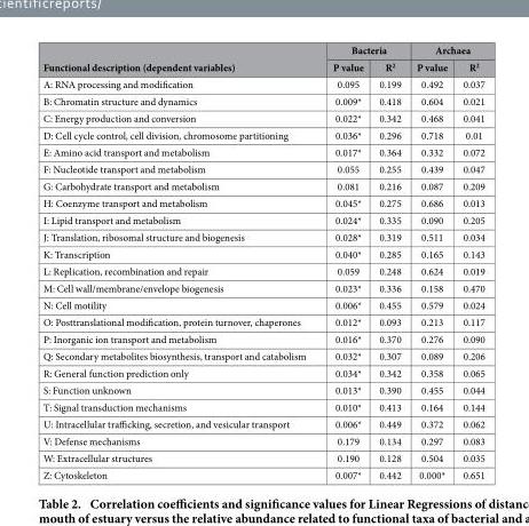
<table><thead><tr><td rowspan="2">Functional description (dependent variables)</td><td colspan="2">Bacteria</td><td colspan="2">Archaea</td></tr><tr><td>P value</td><td>R<sup>2</sup></td><td>P value</td><td>R<sup>2</sup></td></tr></thead><tbody><tr><td>A: RNA processing and modification</td><td>0.095</td><td>0.199</td><td>0.492</td><td>0.037</td></tr><tr><td>B: Chromatin structure and dynamics</td><td>0.009*</td><td>0.418</td><td>0.604</td><td>0.021</td></tr><tr><td>C: Energy production and conversion</td><td>0.022*</td><td>0.342</td><td>0.468</td><td>0.041</td></tr><tr><td>D: Cell cycle control, cell division, chromosome partitioning</td><td>0.036*</td><td>0.296</td><td>0.718</td><td>0.01</td></tr><tr><td>E: Amino acid transport and metabolism</td><td>0.017*</td><td>0.364</td><td>0.332</td><td>0.072</td></tr><tr><td>F: Nucleotide transport and metabolism</td><td>0.055</td><td>0.255</td><td>0.439</td><td>0.047</td></tr><tr><td>G: Carbohydrate transport and metabolism</td><td>0.081</td><td>0.216</td><td>0.087</td><td>0.209</td></tr><tr><td>H: Coenzyme transport and metabolism</td><td>0.045*</td><td>0.275</td><td>0.686</td><td>0.013</td></tr><tr><td>I: Lipid transport and metabolism</td><td>0.024*</td><td>0.335</td><td>0.090</td><td>0.205</td></tr><tr><td>J: Translation, ribosomal structure and biogenesis</td><td>0.028*</td><td>0.319</td><td>0.511</td><td>0.034</td></tr><tr><td>K: Transcription</td><td>0.040*</td><td>0.285</td><td>0.165</td><td>0.143</td></tr><tr><td>L: Replication, recombination and repair</td><td>0.059</td><td>0.248</td><td>0.624</td><td>0.019</td></tr><tr><td>M: Cell wall/membrane/envelope biogenesis</td><td>0.023*</td><td>0.336</td><td>0.158</td><td>0.470</td></tr><tr><td>N: Cell motility</td><td>0.006*</td><td>0.455</td><td>0.579</td><td>0.024</td></tr><tr><td>O: Posttranslational modification, protein turnover, chaperones</td><td>0.012*</td><td>0.093</td><td>0.213</td><td>0.117</td></tr><tr><td>P: Inorganic ion transport and metabolism</td><td>0.016*</td><td>0.370</td><td>0.276</td><td>0.090</td></tr><tr><td>Q: Secondary metabolites biosynthesis, transport and catabolism</td><td>0.032*</td><td>0.307</td><td>0.089</td><td>0.206</td></tr><tr><td>R: General function prediction only</td><td>0.034*</td><td>0.342</td><td>0.358</td><td>0.065</td></tr><tr><td>S: Function unknown</td><td>0.013*</td><td>0.390</td><td>0.455</td><td>0.044</td></tr><tr><td>T: Signal transduction mechanisms</td><td>0.010*</td><td>0.413</td><td>0.164</td><td>0.144</td></tr><tr><td>U: Intracellular trafficking, secretion, and vesicular transport</td><td>0.006*</td><td>0.449</td><td>0.372</td><td>0.062</td></tr><tr><td>V: Defense mechanisms</td><td>0.179</td><td>0.134</td><td>0.297</td><td>0.083</td></tr><tr><td>W: Extracellular structures</td><td>0.190</td><td>0.128</td><td>0.504</td><td>0.035</td></tr><tr><td>Z: Cytoskeleton</td><td>0.007*</td><td>0.442</td><td>0.000*</td><td>0.651</td></tr></tbody></table>